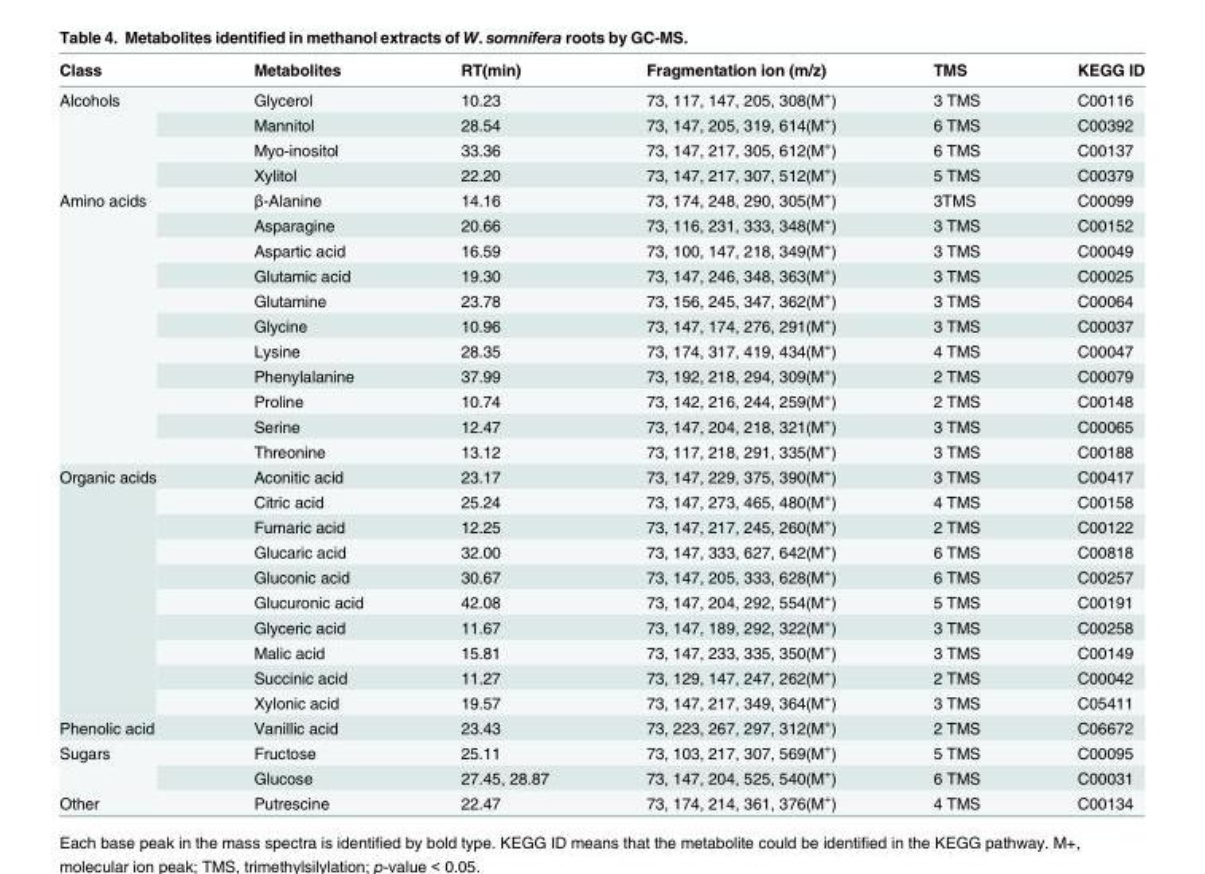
<table><thead><tr><td>Class</td><td>Metabolites</td><td>RT(min)</td><td>Fragmentation ion (m/z)</td><td>TMS</td><td>KEGG ID</td></tr></thead><tbody><tr><td rowspan="4">Alcohols</td><td>Glycerol</td><td>10.23</td><td>73, 117, 147, 205, 308(M<sup>+</sup>)</td><td>3 TMS</td><td>C00116</td></tr><tr><td>Mannitol</td><td>28.54</td><td>73, 147, 205, 319, 614(M<sup>+</sup>)</td><td>6 TMS</td><td>C00392</td></tr><tr><td>Myo-inositol</td><td>33.36</td><td>73, 147, 217, 305, 612(M<sup>+</sup>)</td><td>6 TMS</td><td>C00137</td></tr><tr><td>Xylitol</td><td>22.20</td><td>73, 147, 217, 307, 512(M<sup>+</sup>)</td><td>5 TMS</td><td>C00379</td></tr><tr><td rowspan="11">Amino acids</td><td>β-Alanine</td><td>14.16</td><td>73, 174, 248, 290, 305(M<sup>+</sup>)</td><td>3TMS</td><td>C00099</td></tr><tr><td>Asparagine</td><td>20.66</td><td>73, 116, 231, 333, 348(M<sup>+</sup>)</td><td>3 TMS</td><td>C00152</td></tr><tr><td>Aspartic acid</td><td>16.59</td><td>73, 100, 147, 218, 349(M<sup>+</sup>)</td><td>3 TMS</td><td>C00049</td></tr><tr><td>Glutamic acid</td><td>19.30</td><td>73, 147, 246, 348, 363(M<sup>+</sup>)</td><td>3 TMS</td><td>C00025</td></tr><tr><td>Glutamine</td><td>23.78</td><td>73, 156, 245, 347, 362(M<sup>+</sup>)</td><td>3 TMS</td><td>C00064</td></tr><tr><td>Glycine</td><td>10.96</td><td>73, 147, 174, 276, 291(M<sup>+</sup>)</td><td>3 TMS</td><td>C00037</td></tr><tr><td>Lysine</td><td>28.35</td><td>73, 174, 317, 419, 434(M<sup>+</sup>)</td><td>4 TMS</td><td>C00047</td></tr><tr><td>Phenylalanine</td><td>37.99</td><td>73, 192, 218, 294, 309(M<sup>+</sup>)</td><td>2 TMS</td><td>C00079</td></tr><tr><td>Proline</td><td>10.74</td><td>73, 142, 216, 244, 259(M<sup>+</sup>)</td><td>2 TMS</td><td>C00148</td></tr><tr><td>Serine</td><td>12.47</td><td>73, 147, 204, 218, 321(M<sup>+</sup>)</td><td>3 TMS</td><td>C00065</td></tr><tr><td>Threonine</td><td>13.12</td><td>73, 117, 218, 291, 335(M<sup>+</sup>)</td><td>3 TMS</td><td>C00188</td></tr><tr><td rowspan="10">Organic acids</td><td>Aconitic acid</td><td>23.17</td><td>73, 147, 229, 375, 390(M<sup>+</sup>)</td><td>3 TMS</td><td>C00417</td></tr><tr><td>Citric acid</td><td>25.24</td><td>73, 147, 273, 465, 480(M<sup>+</sup>)</td><td>4 TMS</td><td>C00158</td></tr><tr><td>Fumaric acid</td><td>12.25</td><td>73, 147, 217, 245, 260(M<sup>+</sup>)</td><td>2 TMS</td><td>C00122</td></tr><tr><td>Glucaric acid</td><td>32.00</td><td>73, 147, 333, 627, 642(M<sup>+</sup>)</td><td>6 TMS</td><td>C00818</td></tr><tr><td>Gluconic acid</td><td>30.67</td><td>73, 147, 205, 333, 628(M<sup>+</sup>)</td><td>6 TMS</td><td>C00257</td></tr><tr><td>Glucuronic acid</td><td>42.08</td><td>73, 147, 204, 292, 554(M<sup>+</sup>)</td><td>5 TMS</td><td>C00191</td></tr><tr><td>Glyceric acid</td><td>11.67</td><td>73, 147, 189, 292, 322(M<sup>+</sup>)</td><td>3 TMS</td><td>C00258</td></tr><tr><td>Malic acid</td><td>15.81</td><td>73, 147, 233, 335, 350(M<sup>+</sup>)</td><td>3 TMS</td><td>C00149</td></tr><tr><td>Succinic acid</td><td>11.27</td><td>73, 129, 147, 247, 262(M<sup>+</sup>)</td><td>2 TMS</td><td>C00042</td></tr><tr><td>Xylonic acid</td><td>19.57</td><td>73, 147, 217, 349, 364(M<sup>+</sup>)</td><td>3 TMS</td><td>C05411</td></tr><tr><td>Phenolic acid</td><td>Vanillic acid</td><td>23.43</td><td>73, 223, 267, 297, 312(M<sup>+</sup>)</td><td>2 TMS</td><td>C06672</td></tr><tr><td rowspan="2">Sugars</td><td>Fructose</td><td>25.11</td><td>73, 103, 217, 307, 569(M<sup>+</sup>)</td><td>5 TMS</td><td>C00095</td></tr><tr><td>Glucose</td><td>27.45, 28.87</td><td>73, 147, 204, 525, 540(M<sup>+</sup>)</td><td>6 TMS</td><td>C00031</td></tr><tr><td>Other</td><td>Putrescine</td><td>22.47</td><td>73, 174, 214, 361, 376(M<sup>+</sup>)</td><td>4 TMS</td><td>C00134</td></tr></tbody></table>